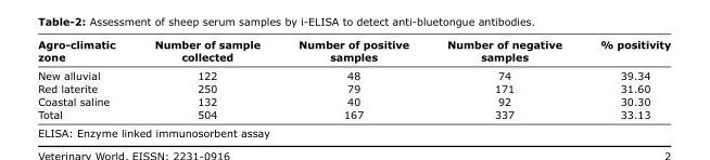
<table><thead><tr><td>Agro-climatic zone</td><td>Number of sample collected</td><td>Number of positive samples</td><td>Number of negative samples</td><td>% positivity</td></tr></thead><tbody><tr><td>New alluvial</td><td>122</td><td>48</td><td>74</td><td>39.34</td></tr><tr><td>Red laterite</td><td>250</td><td>79</td><td>171</td><td>31.60</td></tr><tr><td>Coastal saline</td><td>132</td><td>40</td><td>92</td><td>30.30</td></tr><tr><td>Total</td><td>504</td><td>167</td><td>337</td><td>33.13</td></tr></tbody></table>